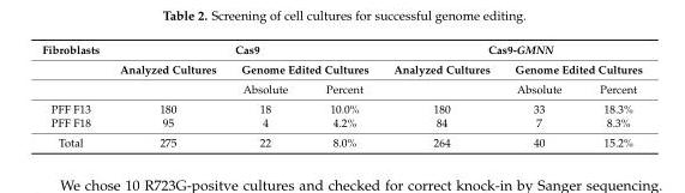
<table><thead><tr><td rowspan="3">Fibroblasts</td><td colspan="3">Cas9</td><td colspan="3">Cas9-GMNN</td></tr><tr><td rowspan="2">Analyzed Cultures</td><td colspan="2">Genome Edited Cultures</td><td rowspan="2">Analyzed Cultures</td><td colspan="2">Genome Edited Cultures</td></tr><tr><td>Absolute</td><td>Percent</td><td>Absolute</td><td>Percent</td></tr></thead><tbody><tr><td>PFF F13</td><td>180</td><td>18</td><td>10.0%</td><td>180</td><td>33</td><td>18.3%</td></tr><tr><td>PFF F18</td><td>95</td><td>4</td><td>4.2%</td><td>84</td><td>7</td><td>8.3%</td></tr><tr><td>Total</td><td>275</td><td>22</td><td>8.0%</td><td>264</td><td>40</td><td>15.2%</td></tr></tbody></table>